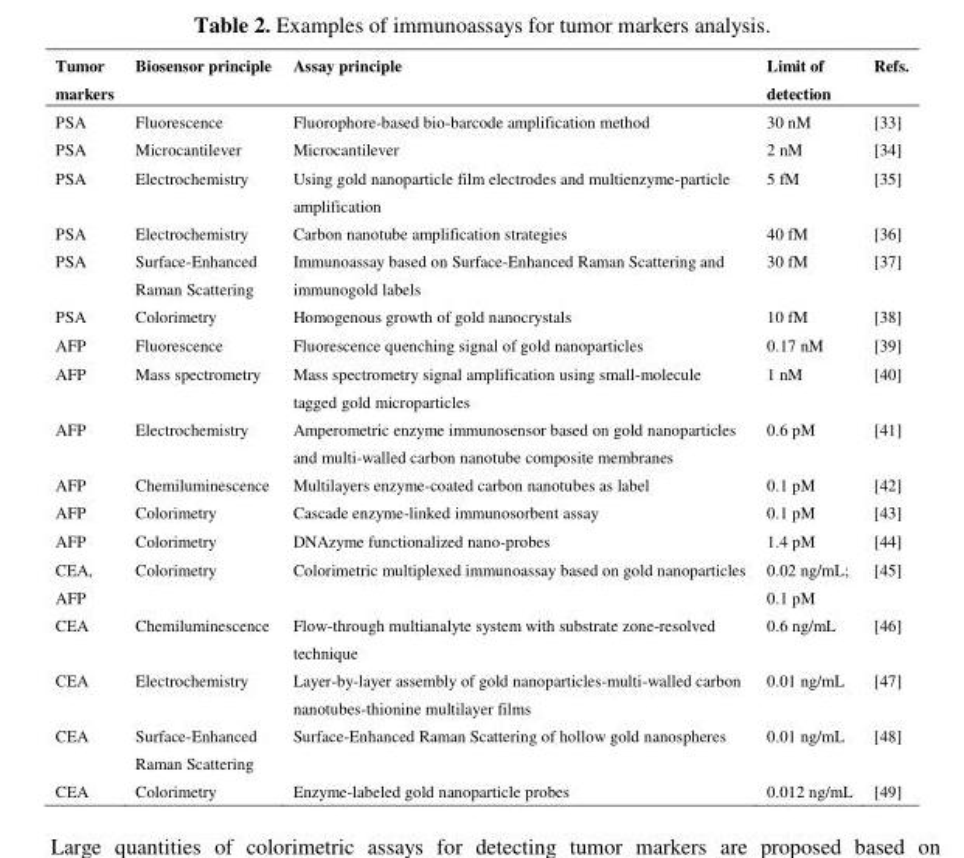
<table><thead><tr><td>Tumor markers</td><td>Biosensor principle</td><td>Assay principle</td><td>Limit of detection</td><td>Refs.</td></tr></thead><tbody><tr><td>PSA</td><td>Fluorescence</td><td>Fluorophore-based bio-barcode amplification method</td><td>30 nM</td><td>[33]</td></tr><tr><td>PSA</td><td>Microcantilever</td><td>Microcantilever</td><td>2 nM</td><td>[34]</td></tr><tr><td>PSA</td><td>Electrochemistry</td><td>Using gold nanoparticle film electrodes and multienzyme-particle amplification</td><td>5 fM</td><td>[35]</td></tr><tr><td>PSA</td><td>Electrochemistry</td><td>Carbon nanotube amplification strategies</td><td>40 fM</td><td>[36]</td></tr><tr><td>PSA</td><td>Surface-Enhanced Raman Scattering</td><td>Immunoassay based on Surface-Enhanced Raman Scattering and immunogold labels</td><td>30 fM</td><td>[37]</td></tr><tr><td>PSA</td><td>Colorimetry</td><td>Homogenous growth of gold nanocrystals</td><td>10 fM</td><td>[38]</td></tr><tr><td>AFP</td><td>Fluorescence</td><td>Fluorescence quenching signal of gold nanoparticles</td><td>0.17 nM</td><td>[39]</td></tr><tr><td>AFP</td><td>Mass spectrometry</td><td>Mass spectrometry signal amplification using small-molecule tagged gold microparticles</td><td>1 nM</td><td>[40]</td></tr><tr><td>AFP</td><td>Electrochemistry</td><td>Amperometric enzyme immunosensor based on gold nanoparticles and multi-walled carbon nanotube composite membranes</td><td>0.6 pM</td><td>[41]</td></tr><tr><td>AFP</td><td>Chemiluminescence</td><td>Multilayers enzyme-coated carbon nanotubes as label</td><td>0.1 pM</td><td>[42]</td></tr><tr><td>AFP</td><td>Colorimetry</td><td>Cascade enzyme-linked immunosorbent assay</td><td>0.1 pM</td><td>[43]</td></tr><tr><td>AFP</td><td>Colorimetry</td><td>DNAzyme functionalized nano-probes</td><td>1.4 pM</td><td>[44]</td></tr><tr><td>CEA, AFP</td><td>Colorimetry</td><td>Colorimetric multiplexed immunoassay based on gold nanoparticles</td><td>0.02 ng/mL; 0.1 pM</td><td>[45]</td></tr><tr><td>CEA</td><td>Chemiluminescence</td><td>Flow-through multianalyte system with substrate zone-resolved technique</td><td>0.6 ng/mL</td><td>[46]</td></tr><tr><td>CEA</td><td>Electrochemistry</td><td>Layer-by-layer assembly of gold nanoparticles-multi-walled carbon nanotubes-thionine multilayer films</td><td>0.01 ng/mL</td><td>[47]</td></tr><tr><td>CEA</td><td>Surface-Enhanced Raman Scattering</td><td>Surface-Enhanced Raman Scattering of hollow gold nanospheres</td><td>0.01 ng/mL</td><td>[48]</td></tr><tr><td>CEA</td><td>Colorimetry</td><td>Enzyme-labeled gold nanoparticle probes</td><td>0.012 ng/mL</td><td>[49]</td></tr></tbody></table>